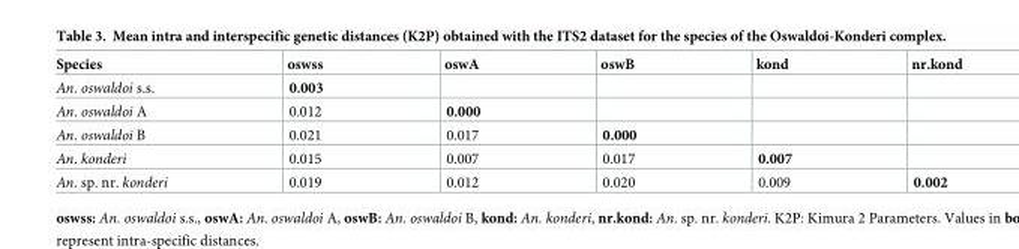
<table><thead><tr><td>Species</td><td>oswss</td><td>oswA</td><td>oswB</td><td>kond</td><td>nr.kond</td></tr></thead><tbody><tr><td>An. oswaldoi s.s.</td><td>0.003</td><td></td><td></td><td></td><td></td></tr><tr><td>An. oswaldoi A</td><td>0.012</td><td>0.000</td><td></td><td></td><td></td></tr><tr><td>An. oswaldoi B</td><td>0.021</td><td>0.017</td><td>0.000</td><td></td><td></td></tr><tr><td>An. konderi</td><td>0.015</td><td>0.007</td><td>0.017</td><td>0.007</td><td></td></tr><tr><td>An. sp. nr. konderi</td><td>0.019</td><td>0.012</td><td>0.020</td><td>0.009</td><td>0.002</td></tr></tbody></table>